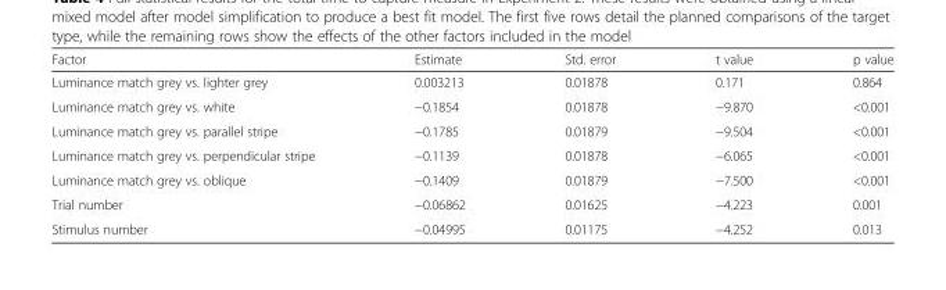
<table><thead><tr><td>Factor</td><td>Estimate</td><td>Std. error</td><td>t value</td><td>p value</td></tr></thead><tbody><tr><td>Luminance match grey vs. lighter grey</td><td>0.003213</td><td>0.01878</td><td>0.171</td><td>0.864</td></tr><tr><td>Luminance match grey vs. white</td><td>−0.1854</td><td>0.01878</td><td>−9.870</td><td>&lt;0.001</td></tr><tr><td>Luminance match grey vs. parallel stripe</td><td>−0.1785</td><td>0.01879</td><td>−9.504</td><td>&lt;0.001</td></tr><tr><td>Luminance match grey vs. perpendicular stripe</td><td>−0.1139</td><td>0.01878</td><td>−6.065</td><td>&lt;0.001</td></tr><tr><td>Luminance match grey vs. oblique</td><td>−0.1409</td><td>0.01879</td><td>−7.500</td><td>&lt;0.001</td></tr><tr><td>Trial number</td><td>−0.06862</td><td>0.01625</td><td>−4.223</td><td>0.001</td></tr><tr><td>Stimulus number</td><td>−0.04995</td><td>0.01175</td><td>−4.252</td><td>0.013</td></tr></tbody></table>